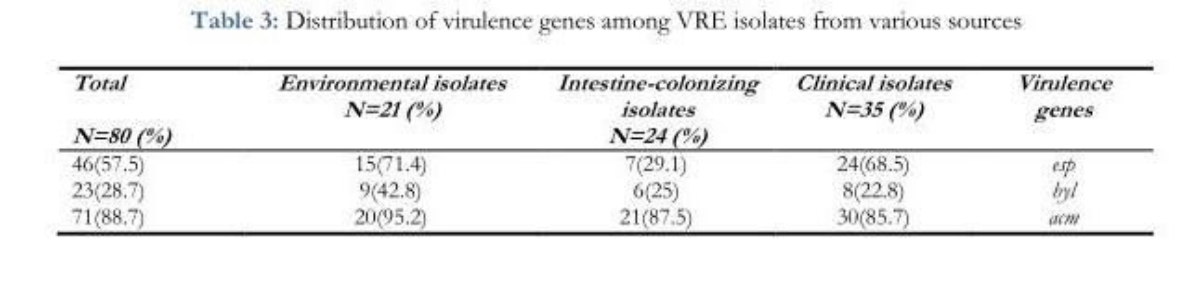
<table><thead><tr><td>Total N=80 (%)</td><td>Environmental isolates N=21 (%)</td><td>Intestine-colonizing isolates N=24 (%)</td><td>Clinical isolates N=35 (%)</td><td>Virulence genes</td></tr></thead><tbody><tr><td>46(57.5)</td><td>15(71.4)</td><td>7(29.1)</td><td>24(68.5)</td><td>esp</td></tr><tr><td>23(28.7)</td><td>9(42.8)</td><td>6(25)</td><td>8(22.8)</td><td>hyl</td></tr><tr><td>71(88.7)</td><td>20(95.2)</td><td>21(87.5)</td><td>30(85.7)</td><td>acm</td></tr></tbody></table>